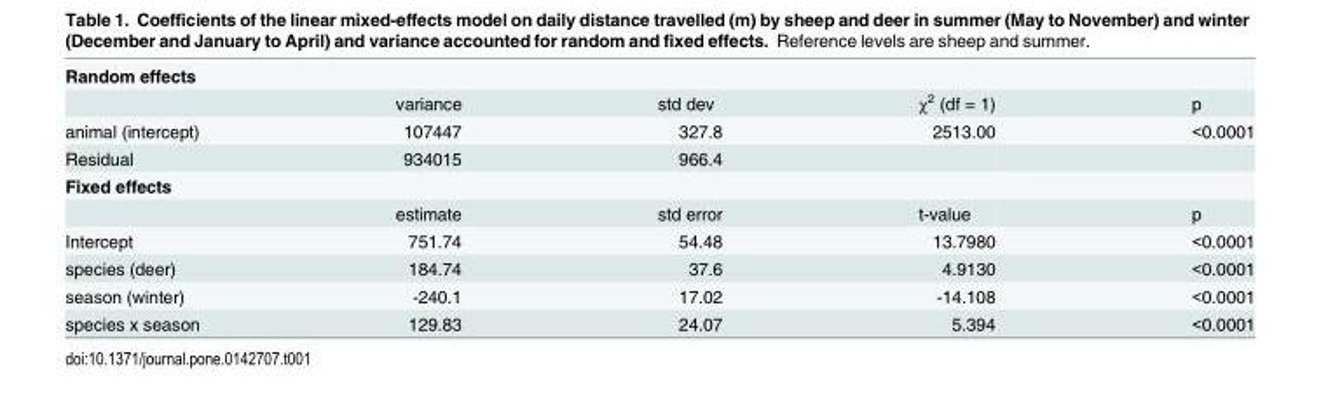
<table><tbody><tr><td colspan="5">Random effects</td></tr><tr><td></td><td>variance</td><td>std dev</td><td>χ<sup>2</sup> (df = 1)</td><td>p</td></tr><tr><td>animal (intercept)</td><td>107447</td><td>327.8</td><td>2513.00</td><td>&lt;0.0001</td></tr><tr><td>Residual</td><td>934015</td><td>966.4</td><td></td><td></td></tr><tr><td colspan="5">Fixed effects</td></tr><tr><td></td><td>estimate</td><td>std error</td><td>t-value</td><td>p</td></tr><tr><td>Intercept</td><td>751.74</td><td>54.48</td><td>13.7980</td><td>&lt;0.0001</td></tr><tr><td>species (deer)</td><td>184.74</td><td>37.6</td><td>4.9130</td><td>&lt;0.0001</td></tr><tr><td>season (winter)</td><td>-240.1</td><td>17.02</td><td>-14.108</td><td>&lt;0.0001</td></tr><tr><td>species x season</td><td>129.83</td><td>24.07</td><td>5.394</td><td>&lt;0.0001</td></tr></tbody></table>